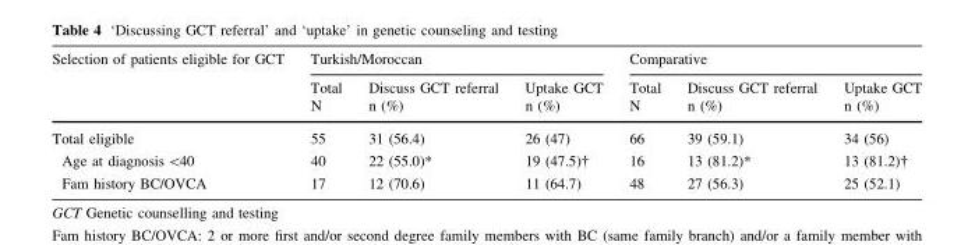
<table><thead><tr><td rowspan="2">Selection of patients eligible for GCT</td><td colspan="3">Turkish/Moroccan</td><td colspan="3">Comparative</td></tr><tr><td>Total N</td><td>Discuss GCT referral n (%)</td><td>Uptake GCT n (%)</td><td>Total N</td><td>Discuss GCT referral n (%)</td><td>Uptake GCT n (%)</td></tr></thead><tbody><tr><td>Total eligible</td><td>55</td><td>31 (56.4)</td><td>26 (47)</td><td>66</td><td>39 (59.1)</td><td>34 (56)</td></tr><tr><td>Age at diagnosis &lt;40</td><td>40</td><td>22 (55.0)*</td><td>19 (47.5)†</td><td>16</td><td>13 (81.2)*</td><td>13 (81.2)†</td></tr><tr><td>Fam history BC/OVCA</td><td>17</td><td>12 (70.6)</td><td>11 (64.7)</td><td>48</td><td>27 (56.3)</td><td>25 (52.1)</td></tr></tbody></table>